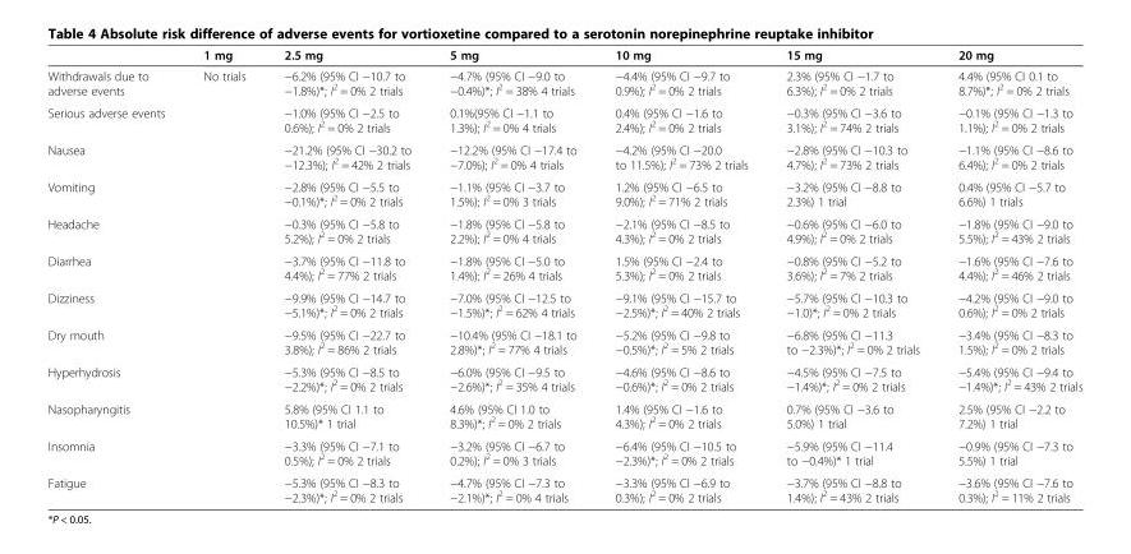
<table><thead><tr><td></td><td>1 mg</td><td>2.5 mg</td><td>5 mg</td><td>10 mg</td><td>15 mg</td><td>20 mg</td></tr></thead><tbody><tr><td>Withdrawals due to adverse events</td><td>No trials</td><td>−6.2% (95% CI −10.7 to −1.8%)*; I<sup>2</sup> = 0% 2 trials</td><td>−4.7% (95% CI −9.0 to −0.4%)*; I<sup>2</sup> = 38% 4 trials</td><td>−4.4% (95% CI −9.7 to 0.9%); I<sup>2</sup> = 0% 2 trials</td><td>2.3% (95% CI −1.7 to 6.3%); I<sup>2</sup> = 0% 2 trials</td><td>4.4% (95% CI 0.1 to 8.7%)*; I<sup>2</sup> = 0% 2 trials</td></tr><tr><td>Serious adverse events</td><td></td><td>−1.0% (95% CI −2.5 to 0.6%); I<sup>2</sup> = 0% 2 trials</td><td>0.1%(95% CI −1.1 to 1.3%); I<sup>2</sup> = 0% 4 trials</td><td>0.4% (95% CI −1.6 to 2.4%); I<sup>2</sup> = 0% 2 trials</td><td>−0.3% (95% CI −3.6 to 3.1%); I<sup>2</sup> = 74% 2 trials</td><td>−0.1% (95% CI −1.3 to 1.1%); I<sup>2</sup> = 0% 2 trials</td></tr><tr><td>Nausea</td><td></td><td>−21.2% (95% CI −30.2 to −12.3%); I<sup>2</sup> = 42% 2 trials</td><td>−12.2% (95% CI −17.4 to −7.0%); I<sup>2</sup> = 0% 4 trials</td><td>−4.2% (95% CI −20.0 to 11.5%); I<sup>2</sup> = 73% 2 trials</td><td>−2.8% (95% CI −10.3 to 4.7%); I<sup>2</sup> = 73% 2 trials</td><td>−1.1% (95% CI −8.6 to 6.4%); I<sup>2</sup> = 0% 2 trials</td></tr><tr><td>Vomiting</td><td></td><td>−2.8% (95% CI −5.5 to −0.1%)*; I<sup>2</sup> = 0% 2 trials</td><td>−1.1% (95% CI −3.7 to 1.5%); I<sup>2</sup> = 0% 3 trials</td><td>1.2% (95% CI −6.5 to 9.0%); I<sup>2</sup> = 71% 2 trials</td><td>−3.2% (95% CI −8.8 to 2.3%) 1 trial</td><td>0.4% (95% CI −5.7 to 6.6%) 1 trials</td></tr><tr><td>Headache</td><td></td><td>−0.3% (95% CI −5.8 to 5.2%); I<sup>2</sup> = 0% 2 trials</td><td>−1.8% (95% CI −5.8 to 2.2%); I<sup>2</sup> = 0% 4 trials</td><td>−2.1% (95% CI −8.5 to 4.3%); I<sup>2</sup> = 0% 2 trials</td><td>−0.6% (95% CI −6.0 to 4.9%); I<sup>2</sup> = 0% 2 trials</td><td>−1.8% (95% CI −9.0 to 5.5%); I<sup>2</sup> = 43% 2 trials</td></tr><tr><td>Diarrhea</td><td></td><td>−3.7% (95% CI −11.8 to 4.4%); I<sup>2</sup> = 77% 2 trials</td><td>−1.8% (95% CI −5.0 to 1.4%); I<sup>2</sup> = 26% 4 trials</td><td>1.5% (95% CI −2.4 to 5.3%); I<sup>2</sup> = 0% 2 trials</td><td>−0.8% (95% CI −5.2 to 3.6%); I<sup>2</sup> = 7% 2 trials</td><td>−1.6% (95% CI −7.6 to 4.4%); I<sup>2</sup> = 46% 2 trials</td></tr><tr><td>Dizziness</td><td></td><td>−9.9% (95% CI −14.7 to −5.1%)*; I<sup>2</sup> = 0% 2 trials</td><td>−7.0% (95% CI −12.5 to −1.5%)*; I<sup>2</sup> = 62% 4 trials</td><td>−9.1% (95% CI −15.7 to −2.5%)*; I<sup>2</sup> = 40% 2 trials</td><td>−5.7% (95% CI −10.3 to −1.0)*; I<sup>2</sup> = 0% 2 trials</td><td>−4.2% (95% CI −9.0 to 0.6%); I<sup>2</sup> = 0% 2 trials</td></tr><tr><td>Dry mouth</td><td></td><td>−9.5% (95% CI −22.7 to 3.8%); I<sup>2</sup> = 86% 2 trials</td><td>−10.4% (95% CI −18.1 to 2.8%)*; I<sup>2</sup> = 77% 4 trials</td><td>−5.2% (95% CI −9.8 to −0.5%)*; I<sup>2</sup> = 5% 2 trials</td><td>−6.8% (95% CI −11.3 to −2.3%)*; I<sup>2</sup> = 0% 2 trials</td><td>−3.4% (95% CI −8.3 to 1.5%); I<sup>2</sup> = 0% 2 trials</td></tr><tr><td>Hyperhydrosis</td><td></td><td>−5.3% (95% CI −8.5 to −2.2%)*; I<sup>2</sup> = 0% 2 trials</td><td>−6.0% (95% CI −9.5 to −2.6%)*; I<sup>2</sup> = 35% 4 trials</td><td>−4.6% (95% CI −8.6 to −0.6%)*; I<sup>2</sup> = 0% 2 trials</td><td>−4.5% (95% CI −7.5 to −1.4%)*; I<sup>2</sup> = 0% 2 trials</td><td>−5.4% (95% CI −9.4 to −1.4%)*; I<sup>2</sup> = 43% 2 trials</td></tr><tr><td>Nasopharyngitis</td><td></td><td>5.8% (95% CI 1.1 to 10.5%)* 1 trial</td><td>4.6% (95% CI 1.0 to 8.3%)*; I<sup>2</sup> = 0% 2 trials</td><td>1.4% (95% CI −1.6 to 4.3%); I<sup>2</sup> = 0% 2 trials</td><td>0.7% (95% CI −3.6 to 5.0%) 1 trial</td><td>2.5% (95% CI −2.2 to 7.2%) 1 trial</td></tr><tr><td>Insomnia</td><td></td><td>−3.3% (95% CI −7.1 to 0.5%); I<sup>2</sup> = 0% 2 trials</td><td>−3.2% (95% CI −6.7 to 0.2%); I<sup>2</sup> = 0% 3 trials</td><td>−6.4% (95% CI −10.5 to −2.3%)*; I<sup>2</sup> = 0% 2 trials</td><td>−5.9% (95% CI −11.4 to −0.4%)* 1 trial</td><td>−0.9% (95% CI −7.3 to 5.5%) 1 trial</td></tr><tr><td>Fatigue</td><td></td><td>−5.3% (95% CI −8.3 to −2.3%)*; I<sup>2</sup> = 0% 2 trials</td><td>−4.7% (95% CI −7.3 to −2.1%)*; I<sup>2</sup> = 0% 4 trials</td><td>−3.3% (95% CI −6.9 to 0.3%); I<sup>2</sup> = 0% 2 trials</td><td>−3.7% (95% CI −8.8 to 1.4%); I<sup>2</sup> = 43% 2 trials</td><td>−3.6% (95% CI −7.6 to 0.3%); I<sup>2</sup> = 11% 2 trials</td></tr></tbody></table>